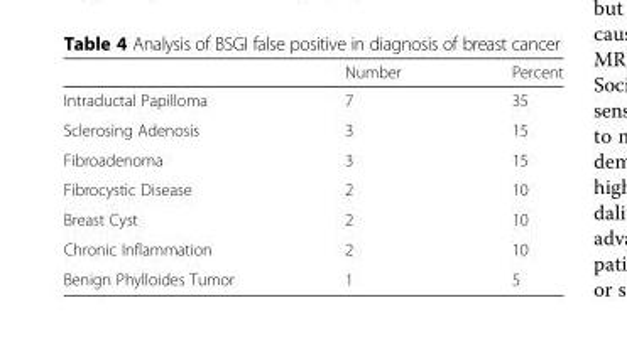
<table><thead><tr><td></td><td>Number</td><td>Percent</td></tr></thead><tbody><tr><td>Intraductal Papilloma</td><td>7</td><td>35</td></tr><tr><td>Sclerosing Adenosis</td><td>3</td><td>15</td></tr><tr><td>Fibroadenoma</td><td>3</td><td>15</td></tr><tr><td>Fibrocystic Disease</td><td>2</td><td>10</td></tr><tr><td>Breast Cyst</td><td>2</td><td>10</td></tr><tr><td>Chronic Inflammation</td><td>2</td><td>10</td></tr><tr><td>Benign Phylloides Tumor</td><td>1</td><td>5</td></tr></tbody></table>